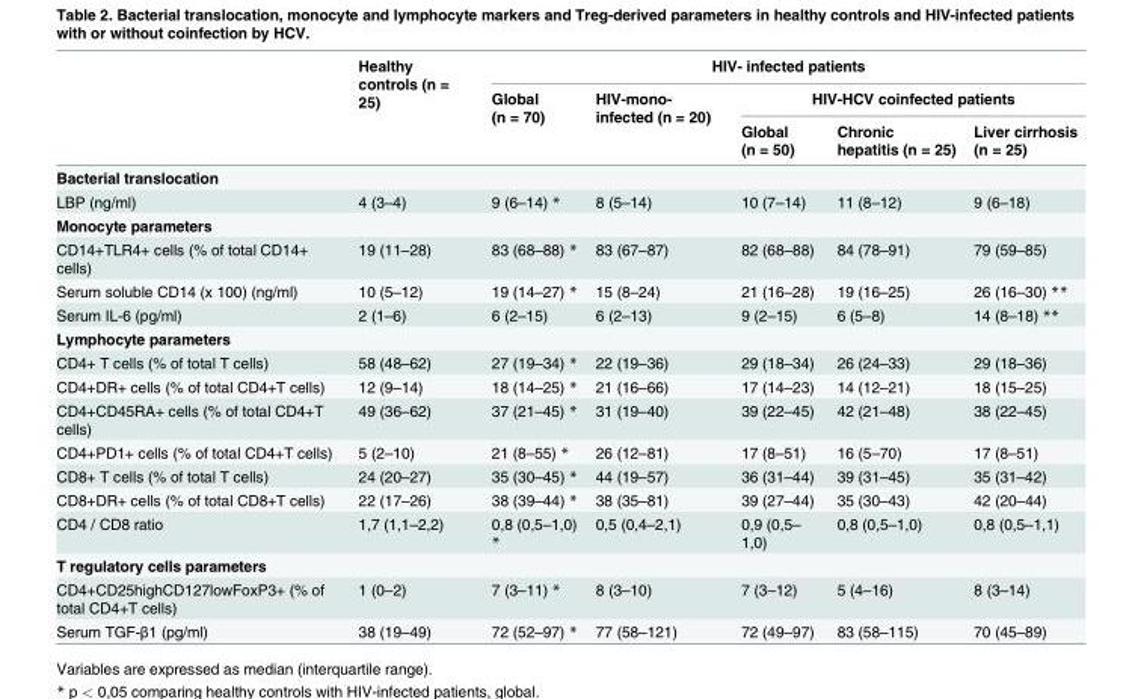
<table><thead><tr><td rowspan="3"></td><td rowspan="3">Healthy controls (n = 25)</td><td colspan="5">HIV- infected patients</td></tr><tr><td rowspan="2">Global (n = 70)</td><td rowspan="2">HIV-mono- infected (n = 20)</td><td colspan="3">HIV-HCV coinfected patients</td></tr><tr><td>Global (n = 50)</td><td>Chronic hepatitis (n = 25)</td><td>Liver cirrhosis (n = 25)</td></tr></thead><tbody><tr><td colspan="7">Bacterial translocation</td></tr><tr><td>LBP (ng/ml)</td><td>4 (3–4)</td><td>9 (6–14) *</td><td>8 (5–14)</td><td>10 (7–14)</td><td>11 (8–12)</td><td>9 (6–18)</td></tr><tr><td colspan="7">Monocyte parameters</td></tr><tr><td>CD14+TLR4+ cells (% of total CD14+ cells)</td><td>19 (11–28)</td><td>83 (68–88) *</td><td>83 (67–87)</td><td>82 (68–88)</td><td>84 (78–91)</td><td>79 (59–85)</td></tr><tr><td>Serum soluble CD14 (x 100) (ng/ml)</td><td>10 (5–12)</td><td>19 (14–27) *</td><td>15 (8–24)</td><td>21 (16–28)</td><td>19 (16–25)</td><td>26 (16–30) **</td></tr><tr><td>Serum IL-6 (pg/ml)</td><td>2 (1–6)</td><td>6 (2–15)</td><td>6 (2–13)</td><td>9 (2–15)</td><td>6 (5–8)</td><td>14 (8–18) **</td></tr><tr><td colspan="7">Lymphocyte parameters</td></tr><tr><td>CD4+ T cells (% of total T cells)</td><td>58 (48–62)</td><td>27 (19–34) *</td><td>22 (19–36)</td><td>29 (18–34)</td><td>26 (24–33)</td><td>29 (18–36)</td></tr><tr><td>CD4+DR+ cells (% of total CD4+T cells)</td><td>12 (9–14)</td><td>18 (14–25) *</td><td>21 (16–66)</td><td>17 (14–23)</td><td>14 (12–21)</td><td>18 (15–25)</td></tr><tr><td>CD4+CD45RA+ cells (% of total CD4+T cells)</td><td>49 (36–62)</td><td>37 (21–45) *</td><td>31 (19–40)</td><td>39 (22–45)</td><td>42 (21–48)</td><td>38 (22–45)</td></tr><tr><td>CD4+PD1+ cells (% of total CD4+T cells)</td><td>5 (2–10)</td><td>21 (8–55) *</td><td>26 (12–81)</td><td>17 (8–51)</td><td>16 (5–70)</td><td>17 (8–51)</td></tr><tr><td>CD8+ T cells (% of total T cells)</td><td>24 (20–27)</td><td>35 (30–45) *</td><td>44 (19–57)</td><td>36 (31–44)</td><td>39 (31–45)</td><td>35 (31–42)</td></tr><tr><td>CD8+DR+ cells (% of total CD8+T cells)</td><td>22 (17–26)</td><td>38 (39–44) *</td><td>38 (35–81)</td><td>39 (27–44)</td><td>35 (30–43)</td><td>42 (20–44)</td></tr><tr><td>CD4 / CD8 ratio</td><td>1,7 (1,1–2,2)</td><td>0,8 (0,5–1,0) *</td><td>0,5 (0,4–2,1)</td><td>0,9 (0,5– 1,0)</td><td>0,8 (0,5–1,0)</td><td>0,8 (0,5–1,1)</td></tr><tr><td colspan="7">T regulatory cells parameters</td></tr><tr><td>CD4+CD25highCD127lowFoxP3+ (% of total CD4+T cells)</td><td>1 (0–2)</td><td>7 (3–11) *</td><td>8 (3–10)</td><td>7 (3–12)</td><td>5 (4–16)</td><td>8 (3–14)</td></tr><tr><td>Serum TGF-β1 (pg/ml)</td><td>38 (19–49)</td><td>72 (52–97) *</td><td>77 (58–121)</td><td>72 (49–97)</td><td>83 (58–115)</td><td>70 (45–89)</td></tr></tbody></table>